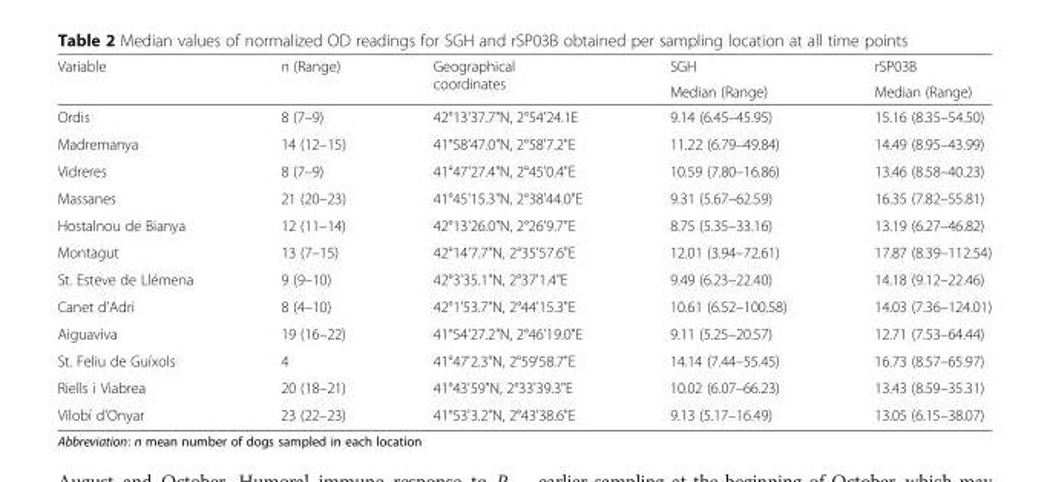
<table><thead><tr><td rowspan="2">Variable</td><td rowspan="2">n (Range)</td><td rowspan="2">Geographical coordinates</td><td rowspan="2">SGH Median (Range)</td><td rowspan="2">rSP03B Median (Range)</td></tr><tr></tr></thead><tbody><tr><td>Ordis</td><td>8 (7–9)</td><td>42°13&#x27;37.7&quot;N, 2°54&#x27;24.1E</td><td>9.14 (6.45–45.95)</td><td>15.16 (8.35–54.50)</td></tr><tr><td>Madremanya</td><td>14 (12–15)</td><td>41°58&#x27;47.0&quot;N, 2°58&#x27;7.2&quot;E</td><td>11.22 (6.79–49.84)</td><td>14.49 (8.95–43.99)</td></tr><tr><td>Vidreres</td><td>8 (7–9)</td><td>41°47&#x27;27.4&quot;N, 2°45&#x27;0.4&quot;E</td><td>10.59 (7.80–16.86)</td><td>13.46 (8.58–40.23)</td></tr><tr><td>Massanes</td><td>21 (20–23)</td><td>41°45&#x27;15.3&quot;N, 2°38&#x27;44.0&quot;E</td><td>9.31 (5.67–62.59)</td><td>16.35 (7.82–55.81)</td></tr><tr><td>Hostalnou de Bianya</td><td>12 (11–14)</td><td>42°13&#x27;26.0&quot;N, 2°26&#x27;9.7&quot;E</td><td>8.75 (5.35–33.16)</td><td>13.19 (6.27–46.82)</td></tr><tr><td>Montagut</td><td>13 (7–15)</td><td>42°14&#x27;7.7&quot;N, 2°35&#x27;57.6&quot;E</td><td>12.01 (3.94–72.61)</td><td>17.87 (8.39–112.54)</td></tr><tr><td>St. Esteve de Llémena</td><td>9 (9–10)</td><td>42°3&#x27;35.1&quot;N, 2°37&#x27;1.4&quot;E</td><td>9.49 (6.23–22.40)</td><td>14.18 (9.12–22.46)</td></tr><tr><td>Canet d&#x27;Adri</td><td>8 (4–10)</td><td>42°1&#x27;53.7&quot;N, 2°44&#x27;15.3&quot;E</td><td>10.61 (6.52–100.58)</td><td>14.03 (7.36–124.01)</td></tr><tr><td>Aiguaviva</td><td>19 (16–22)</td><td>41°54&#x27;27.2&quot;N, 2°46&#x27;19.0&quot;E</td><td>9.11 (5.25–20.57)</td><td>12.71 (7.53–64.44)</td></tr><tr><td>St. Feliu de Guíxols</td><td>4</td><td>41°47&#x27;2.3&quot;N, 2°59&#x27;58.7&quot;E</td><td>14.14 (7.44–55.45)</td><td>16.73 (8.57–65.97)</td></tr><tr><td>Riells i Viabrea</td><td>20 (18–21)</td><td>41°43&#x27;59&quot;N, 2°33&#x27;39.3&quot;E</td><td>10.02 (6.07–66.23)</td><td>13.43 (8.59–35.31)</td></tr><tr><td>Vilobí d&#x27;Onyar</td><td>23 (22–23)</td><td>41°53&#x27;3.2&quot;N, 2°43&#x27;38.6&quot;E</td><td>9.13 (5.17–16.49)</td><td>13.05 (6.15–38.07)</td></tr></tbody></table>